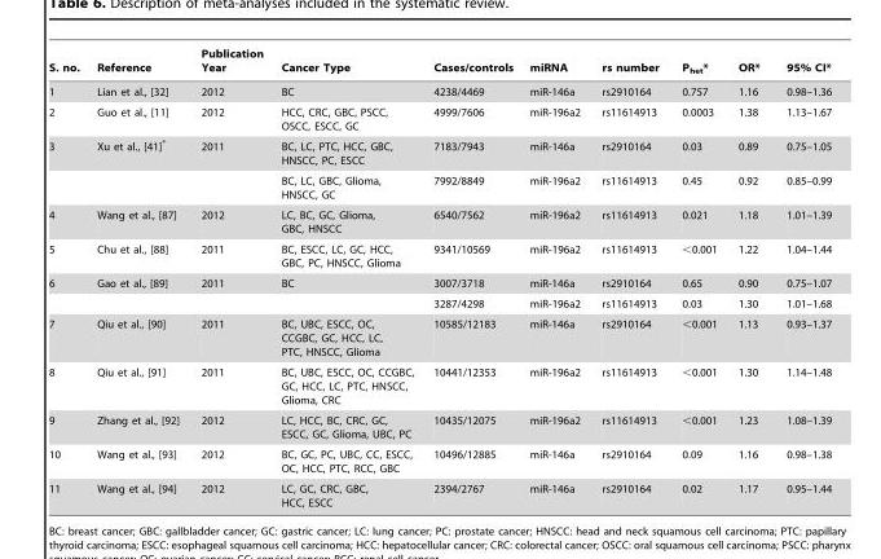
<table><thead><tr><td>S. no.</td><td>Reference</td><td>Publication Year</td><td>Cancer Type</td><td>Cases/controls</td><td>miRNA</td><td>rs number</td><td>P<sub>het</sub>*</td><td>OR*</td><td>95% CI*</td></tr></thead><tbody><tr><td>1</td><td>Lian et al., [32]</td><td>2012</td><td>BC</td><td>4238/4469</td><td>miR-146a</td><td>rs2910164</td><td>0.757</td><td>1.16</td><td>0.98–1.36</td></tr><tr><td>2</td><td>Guo et al., [11]</td><td>2012</td><td>HCC, CRC, GBC, PSCC, OSCC, ESCC, GC</td><td>4999/7606</td><td>miR-196a2</td><td>rs11614913</td><td>0.0003</td><td>1.38</td><td>1.13–1.67</td></tr><tr><td rowspan="2">3</td><td>Xu et al., [41]*</td><td>2011</td><td>BC, LC, PTC, HCC, GBC, HNSCC, PC, ESCC</td><td>7183/7943</td><td>miR-146a</td><td>rs2910164</td><td>0.03</td><td>0.89</td><td>0.75–1.05</td></tr><tr><td></td><td></td><td>BC, LC, GBC, Glioma, HNSCC, GC</td><td>7992/8849</td><td>miR-196a2</td><td>rs11614913</td><td>0.45</td><td>0.92</td><td>0.85–0.99</td></tr><tr><td>4</td><td>Wang et al., [87]</td><td>2012</td><td>LC, BC, GC, Glioma, GBC, HNSCC</td><td>6540/7562</td><td>miR-196a2</td><td>rs11614913</td><td>0.021</td><td>1.18</td><td>1.01–1.39</td></tr><tr><td>5</td><td>Chu et al., [88]</td><td>2011</td><td>BC, ESCC, LC, GC, HCC, GBC, PC, HNSCC, Glioma</td><td>9341/10569</td><td>miR-196a2</td><td>rs11614913</td><td>&lt;0.001</td><td>1.22</td><td>1.04–1.44</td></tr><tr><td rowspan="2">6</td><td>Gao et al., [89]</td><td>2011</td><td>BC</td><td>3007/3718</td><td>miR-146a</td><td>rs2910164</td><td>0.65</td><td>0.90</td><td>0.75–1.07</td></tr><tr><td></td><td></td><td></td><td>3287/4298</td><td>miR-196a2</td><td>rs11614913</td><td>0.03</td><td>1.30</td><td>1.01–1.68</td></tr><tr><td>7</td><td>Qiu et al., [90]</td><td>2011</td><td>BC, UBC, ESCC, OC, CCGBC, GC, HCC, LC, PTC, HNSCC, Glioma</td><td>10585/12183</td><td>miR-146a</td><td>rs2910164</td><td>&lt;0.001</td><td>1.13</td><td>0.93–1.37</td></tr><tr><td>8</td><td>Qiu et al., [91]</td><td>2011</td><td>BC, UBC, ESCC, OC, CCGBC, GC, HCC, LC, PTC, HNSCC, Glioma, CRC</td><td>10441/12353</td><td>miR-196a2</td><td>rs11614913</td><td>&lt;0.001</td><td>1.30</td><td>1.14–1.48</td></tr><tr><td>9</td><td>Zhang et al., [92]</td><td>2012</td><td>LC, HCC, BC, CRC, GC, ESCC, GC, Glioma, UBC, PC</td><td>10435/12075</td><td>miR-196a2</td><td>rs11614913</td><td>&lt;0.001</td><td>1.23</td><td>1.08–1.39</td></tr><tr><td>10</td><td>Wang et al., [93]</td><td>2012</td><td>BC, GC, PC, UBC, CC, ESCC, OC, HCC, PTC, RCC, GBC</td><td>10496/12885</td><td>miR-146a</td><td>rs2910164</td><td>0.09</td><td>1.16</td><td>0.98–1.38</td></tr><tr><td>11</td><td>Wang et al., [94]</td><td>2012</td><td>LC, GC, CRC, GBC, HCC, ESCC</td><td>2394/2767</td><td>miR-146a</td><td>rs2910164</td><td>0.02</td><td>1.17</td><td>0.95–1.44</td></tr></tbody></table>